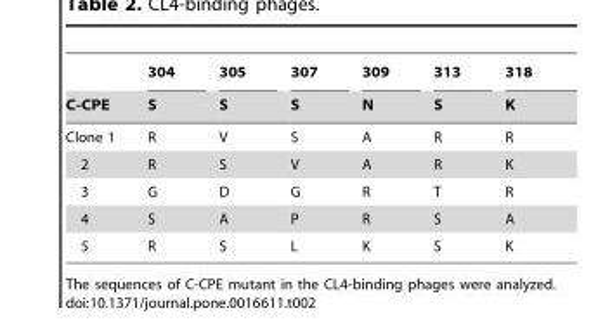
<table><thead><tr><td rowspan="2">C-CPE</td><td rowspan="2">304 S</td><td rowspan="2">305 S</td><td rowspan="2">307 S</td><td rowspan="2">309 N</td><td rowspan="2">313 S</td><td rowspan="2">318 K</td></tr><tr></tr></thead><tbody><tr><td>Clone 1</td><td>R</td><td>V</td><td>S</td><td>A</td><td>R</td><td>R</td></tr><tr><td>2</td><td>R</td><td>S</td><td>V</td><td>A</td><td>R</td><td>K</td></tr><tr><td>3</td><td>G</td><td>D</td><td>G</td><td>R</td><td>T</td><td>R</td></tr><tr><td>4</td><td>S</td><td>A</td><td>P</td><td>R</td><td>S</td><td>A</td></tr><tr><td>5</td><td>R</td><td>S</td><td>L</td><td>K</td><td>S</td><td>K</td></tr></tbody></table>